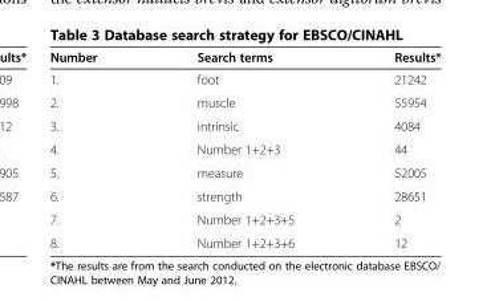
<table><thead><tr><td>Number</td><td>Search terms</td><td>Results*</td></tr></thead><tbody><tr><td>1.</td><td>foot</td><td>21242</td></tr><tr><td>2.</td><td>muscle</td><td>55954</td></tr><tr><td>3.</td><td>intrinsic</td><td>4084</td></tr><tr><td>4.</td><td>Number 1+2+3</td><td>44</td></tr><tr><td>5.</td><td>measure</td><td>52005</td></tr><tr><td>6.</td><td>strength</td><td>28651</td></tr><tr><td>7.</td><td>Number 1+2+3+5</td><td>2</td></tr><tr><td>8.</td><td>Number 1+2+3+6</td><td>12</td></tr></tbody></table>